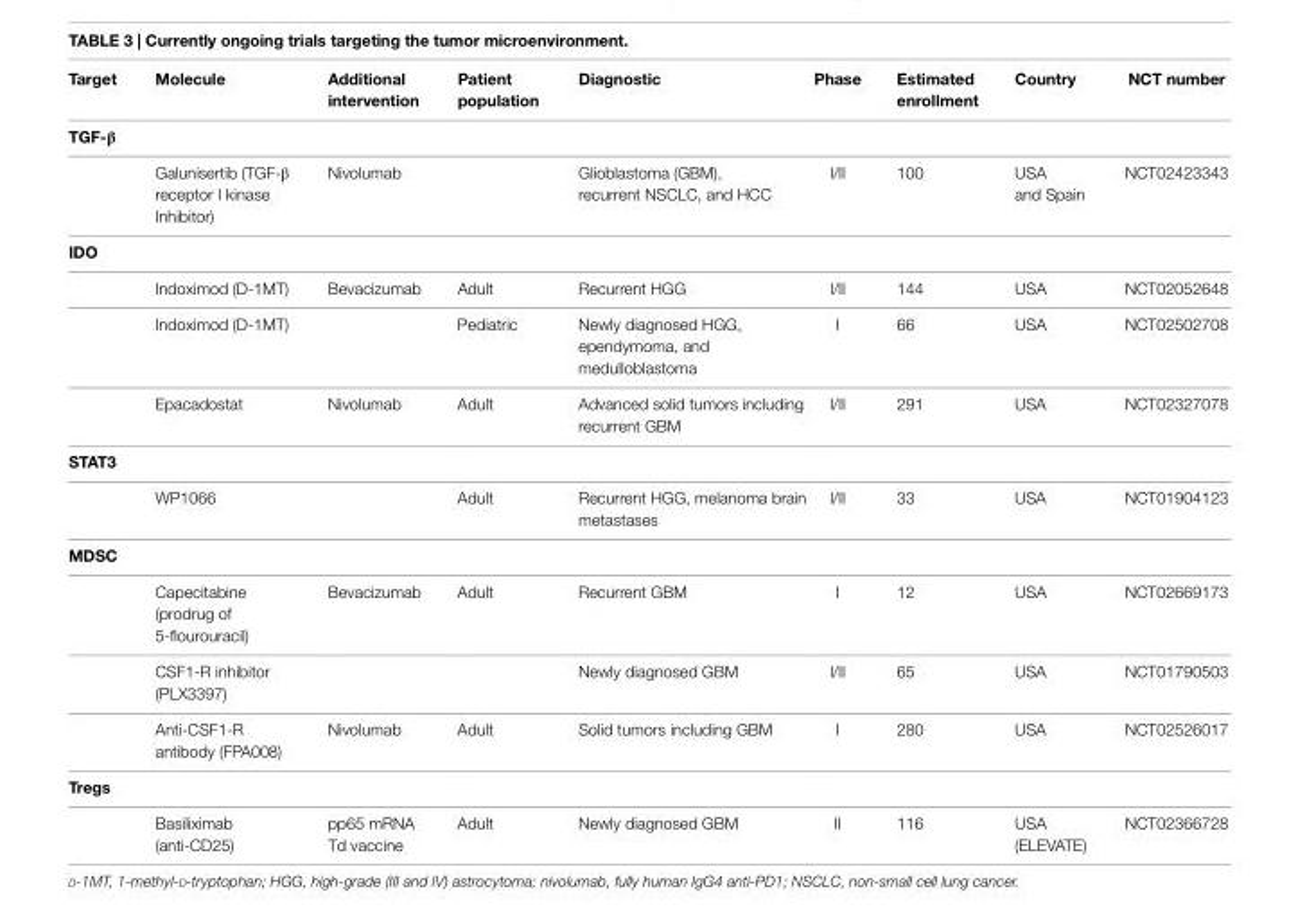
<table><thead><tr><td>Target</td><td>Molecule</td><td>Additional intervention</td><td>Patient population</td><td>Diagnostic</td><td>Phase</td><td>estimated enrollment</td><td>Country</td><td>NCT number</td></tr></thead><tbody><tr><td colspan="9">TGF-β</td></tr><tr><td></td><td>Galunisertib (TGF-β receptor I kinase Inhibitor)</td><td>Nivolumab</td><td></td><td>Glioblastoma (GBM), recurrent NSCLC, and HCC</td><td>I/II</td><td>100</td><td>USA and Spain</td><td>NCT02423343</td></tr><tr><td colspan="9">iDO</td></tr><tr><td></td><td>Indoximod (D-1MT)</td><td>Bevacizumab</td><td>Adult</td><td>Recurrent HGG</td><td>I/II</td><td>144</td><td>USA</td><td>NCT02052648</td></tr><tr><td></td><td>Indoximod (D-1MT)</td><td></td><td>Pediatric</td><td>Newly diagnosed HGG, ependymoma, and medulloblastoma</td><td>I</td><td>66</td><td>USA</td><td>NCT02502708</td></tr><tr><td></td><td>Epacadostat</td><td>Nivolumab</td><td>Adult</td><td>Advanced solid tumors including recurrent GBM</td><td>I/II</td><td>291</td><td>USA</td><td>NCT02327078</td></tr><tr><td colspan="9">STAT3</td></tr><tr><td></td><td>WP1066</td><td></td><td>Adult</td><td>Recurrent HGG, melanoma brain metastases</td><td>I/II</td><td>33</td><td>USA</td><td>NCT01904123</td></tr><tr><td colspan="9">MDSC</td></tr><tr><td></td><td>Capecitabine (prodrug of 5-flourouracil)</td><td>Bevacizumab</td><td>Adult</td><td>Recurrent GBM</td><td>I</td><td>12</td><td>USA</td><td>NCT02669173</td></tr><tr><td></td><td>CSF1-R inhibitor (PLX3397)</td><td></td><td></td><td>Newly diagnosed GBM</td><td>I/II</td><td>65</td><td>USA</td><td>NCT01790503</td></tr><tr><td></td><td>Anti-CSF1-R antibody (FPA008)</td><td>Nivolumab</td><td>Adult</td><td>Solid tumors including GBM</td><td>I</td><td>280</td><td>USA</td><td>NCT02526017</td></tr><tr><td colspan="9">Tregs</td></tr><tr><td></td><td>Basiliximab (anti-CD25)</td><td>pp65 mRNA Td vaccine</td><td>Adult</td><td>Newly diagnosed GBM</td><td>II</td><td>116</td><td>USA (ELEVATE)</td><td>NCT02366728</td></tr></tbody></table>